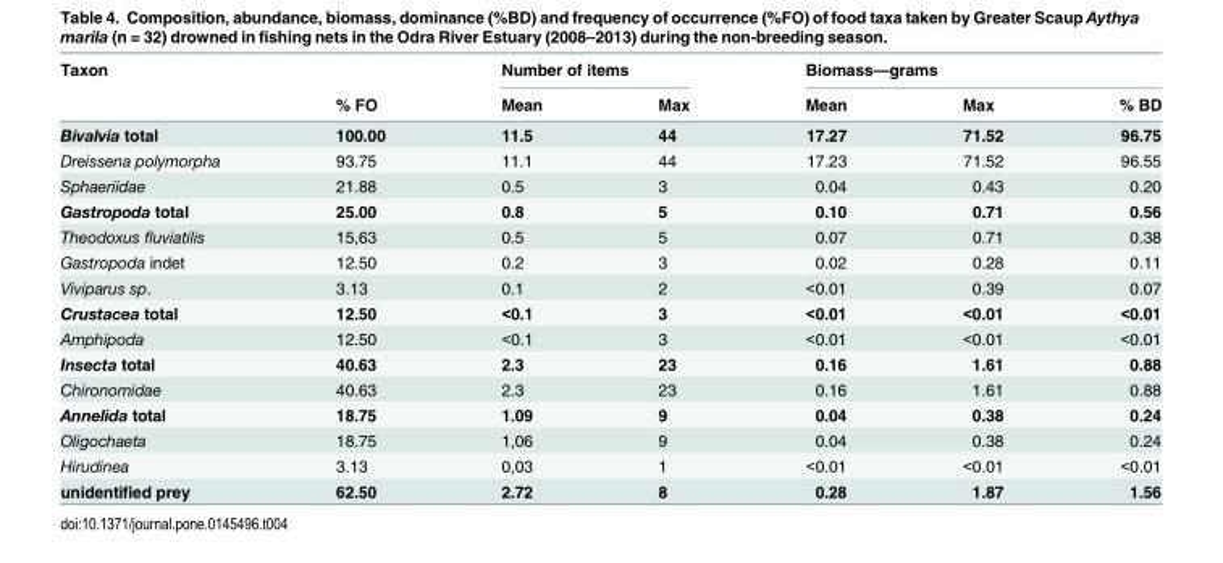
<table><thead><tr><td rowspan="2">Taxon</td><td rowspan="2">% FO</td><td colspan="2">Number of items</td><td colspan="3">Biomass—grams</td></tr><tr><td>Mean</td><td>Max</td><td>Mean</td><td>Max</td><td>% BD</td></tr></thead><tbody><tr><td>Bivalvia total</td><td>100.00</td><td>11.5</td><td>44</td><td>17.27</td><td>71.52</td><td>96.75</td></tr><tr><td>Dreissena polymorpha</td><td>93.75</td><td>11.1</td><td>44</td><td>17.23</td><td>71.52</td><td>96.55</td></tr><tr><td>Sphaeriidae</td><td>21.88</td><td>0.5</td><td>3</td><td>0.04</td><td>0.43</td><td>0.20</td></tr><tr><td>Gastropoda total</td><td>25.00</td><td>0.8</td><td>5</td><td>0.10</td><td>0.71</td><td>0.56</td></tr><tr><td>Theodoxus fluviatilis</td><td>15,63</td><td>0.5</td><td>5</td><td>0.07</td><td>0.71</td><td>0.38</td></tr><tr><td>Gastropoda indet</td><td>12.50</td><td>0.2</td><td>3</td><td>0.02</td><td>0.28</td><td>0.11</td></tr><tr><td>Viviparus sp.</td><td>3.13</td><td>0.1</td><td>2</td><td>&lt;0.01</td><td>0.39</td><td>0.07</td></tr><tr><td>Crustacea total</td><td>12.50</td><td>&lt;0.1</td><td>3</td><td>&lt;0.01</td><td>&lt;0.01</td><td>&lt;0.01</td></tr><tr><td>Amphipoda</td><td>12.50</td><td>&lt;0.1</td><td>3</td><td>&lt;0.01</td><td>&lt;0.01</td><td>&lt;0.01</td></tr><tr><td>Insecta total</td><td>40.63</td><td>2.3</td><td>23</td><td>0.16</td><td>1.61</td><td>0.88</td></tr><tr><td>Chironomidae</td><td>40.63</td><td>2.3</td><td>23</td><td>0.16</td><td>1.61</td><td>0.88</td></tr><tr><td>Annelida total</td><td>18.75</td><td>1.09</td><td>9</td><td>0.04</td><td>0.38</td><td>0.24</td></tr><tr><td>Oligochaeta</td><td>18.75</td><td>1,06</td><td>9</td><td>0.04</td><td>0.38</td><td>0.24</td></tr><tr><td>Hirudinea</td><td>3.13</td><td>0,03</td><td>1</td><td>&lt;0.01</td><td>&lt;0.01</td><td>&lt;0.01</td></tr><tr><td>unidentified prey</td><td>62.50</td><td>2.72</td><td>8</td><td>0.28</td><td>1.87</td><td>1.56</td></tr></tbody></table>